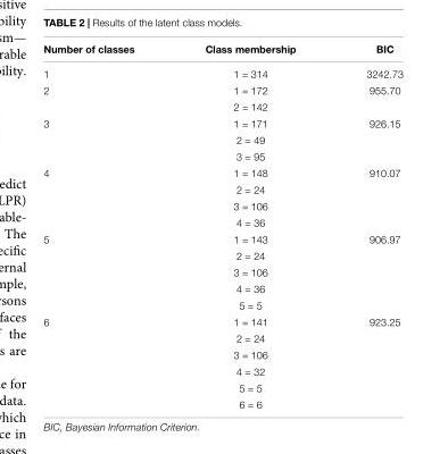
<table><thead><tr><td>Number of classes</td><td>Class membership</td><td>BIC</td></tr></thead><tbody><tr><td>1</td><td>1 = 314</td><td>3242.73</td></tr><tr><td rowspan="2">2</td><td>1 = 172</td><td>955.70</td></tr><tr><td>2 = 142</td><td></td></tr><tr><td rowspan="3">3</td><td>1 = 171</td><td>926.15</td></tr><tr><td>2 = 49</td><td></td></tr><tr><td>3 = 95</td><td></td></tr><tr><td rowspan="4">4</td><td>1 = 148</td><td>910.07</td></tr><tr><td>2 = 24</td><td></td></tr><tr><td>3 = 106</td><td></td></tr><tr><td>4 = 36</td><td></td></tr><tr><td rowspan="5">5</td><td>1 = 143</td><td>906.97</td></tr><tr><td>2 = 24</td><td></td></tr><tr><td>3 = 106</td><td></td></tr><tr><td>4 = 36</td><td></td></tr><tr><td>5 = 5</td><td></td></tr><tr><td rowspan="6">6</td><td>1 = 141</td><td>923.25</td></tr><tr><td>2 = 24</td><td></td></tr><tr><td>3 = 106</td><td></td></tr><tr><td>4 = 32</td><td></td></tr><tr><td>5 = 5</td><td></td></tr><tr><td>6 = 6</td><td></td></tr></tbody></table>